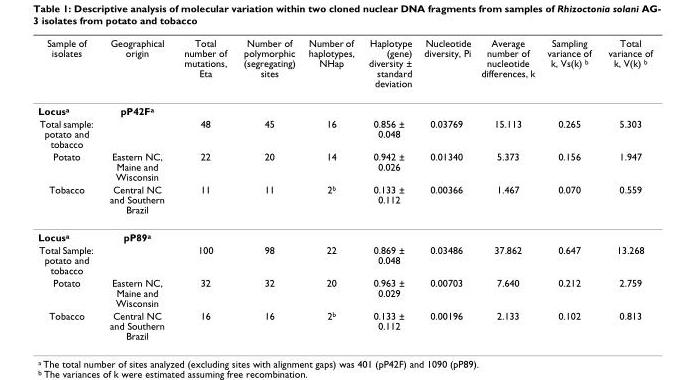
<table><thead><tr><td>Sample of isolates</td><td>Geographical origin</td><td>Total number of mutations, Eta</td><td>Number of polymorphic (segregating) sites</td><td>Number of haplotypes, NHap</td><td>Haplotype (gene) diversity ± standard deviation</td><td>Nucleotide diversity, Pi</td><td>Average number of nucleotide differences, k</td><td>Sampling variance of k, Vs(k) <sup>b</sup></td><td>Total variance of k, V(k) <sup>b</sup></td></tr></thead><tbody><tr><td>Locus<sup>a</sup></td><td>pP42F<sup>a</sup></td><td></td><td></td><td></td><td></td><td></td><td></td><td></td><td></td></tr><tr><td>Total sample: potato and tobacco</td><td></td><td>48</td><td>45</td><td>16</td><td>0.856 ± 0.048</td><td>0.03769</td><td>15.113</td><td>0.265</td><td>5.303</td></tr><tr><td>Potato</td><td>Eastern NC, Maine and Wisconsin</td><td>22</td><td>20</td><td>14</td><td>0.942 ± 0.026</td><td>0.01340</td><td>5.373</td><td>0.156</td><td>1.947</td></tr><tr><td>Tobacco</td><td>Central NC and Southern Brazil</td><td>11</td><td>11</td><td>2<sup>b</sup></td><td>0.133 ± 0.112</td><td>0.00366</td><td>1.467</td><td>0.070</td><td>0.559</td></tr><tr><td>Locus<sup>a</sup></td><td>pP89<sup>a</sup></td><td></td><td></td><td></td><td></td><td></td><td></td><td></td><td></td></tr><tr><td>Total Sample: potato and tobacco</td><td></td><td>100</td><td>98</td><td>22</td><td>0.869 ± 0.048</td><td>0.03486</td><td>37.862</td><td>0.647</td><td>13.268</td></tr><tr><td>Potato</td><td>Eastern NC, Maine and Wisconsin</td><td>32</td><td>32</td><td>20</td><td>0.963 ± 0.029</td><td>0.00703</td><td>7.640</td><td>0.212</td><td>2.759</td></tr><tr><td>Tobacco</td><td>Central NC and Southern Brazil</td><td>16</td><td>16</td><td>2<sup>b</sup></td><td>0.133 ± 0.112</td><td>0.00196</td><td>2.133</td><td>0.102</td><td>0.813</td></tr></tbody></table>